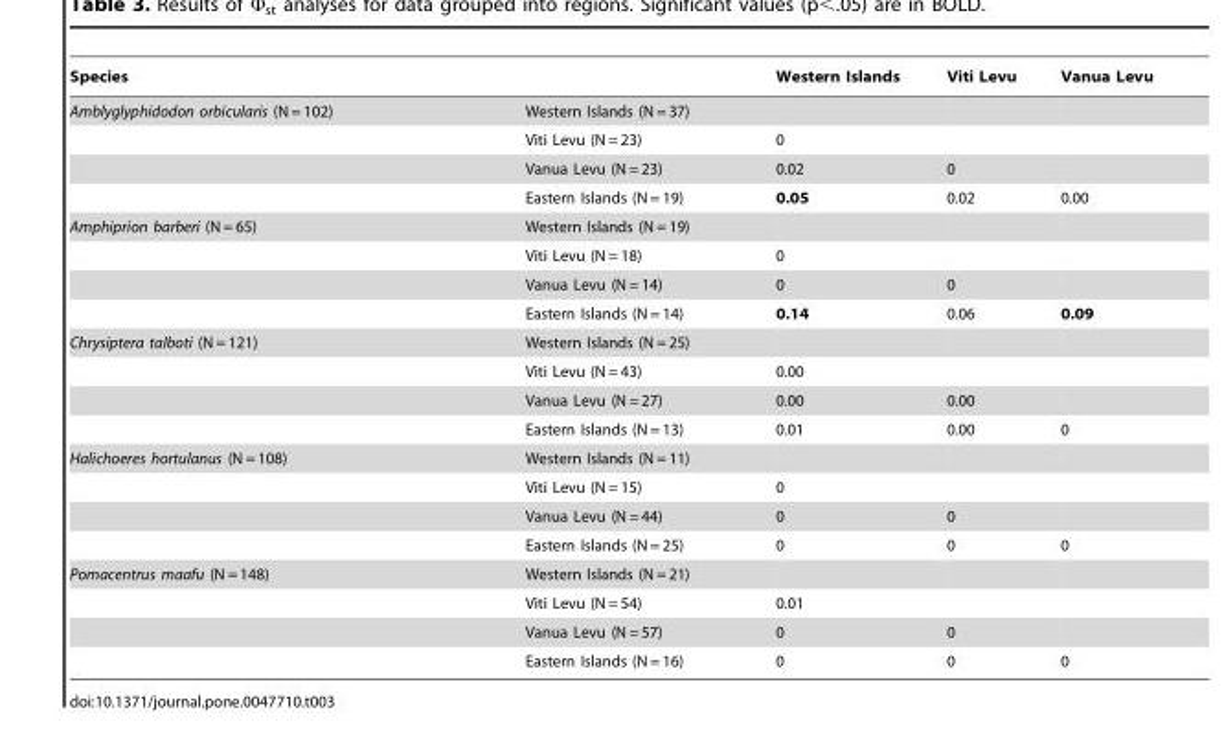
<table><thead><tr><td>Species</td><td></td><td>Western Islands</td><td>Viti Levu</td><td>Vanua Levu</td></tr></thead><tbody><tr><td rowspan="4">Amblyglyphidodon orbicularis (N = 102)</td><td>Western Islands (N = 37)</td><td></td><td></td><td></td></tr><tr><td>Viti Levu (N = 23)</td><td>0</td><td></td><td></td></tr><tr><td>Vanua Levu (N = 23)</td><td>0.02</td><td>0</td><td></td></tr><tr><td>Eastern Islands (N = 19)</td><td>0.05</td><td>0.02</td><td>0.00</td></tr><tr><td rowspan="4">Amphiprion barberi (N = 65)</td><td>Western Islands (N = 19)</td><td></td><td></td><td></td></tr><tr><td>Viti Levu (N = 18)</td><td>0</td><td></td><td></td></tr><tr><td>Vanua Levu (N = 14)</td><td>0</td><td>0</td><td></td></tr><tr><td>Eastern Islands (N = 14)</td><td>0.14</td><td>0.06</td><td>0.09</td></tr><tr><td rowspan="4">Chrysiptera talboti (N = 121)</td><td>Western Islands (N = 25)</td><td></td><td></td><td></td></tr><tr><td>Viti Levu (N = 43)</td><td>0.00</td><td></td><td></td></tr><tr><td>Vanua Levu (N = 27)</td><td>0.00</td><td>0.00</td><td></td></tr><tr><td>Eastern Islands (N = 13)</td><td>0.01</td><td>0.00</td><td>0</td></tr><tr><td rowspan="4">Halichoeres hortulanus (N = 108)</td><td>Western Islands (N = 11)</td><td></td><td></td><td></td></tr><tr><td>Viti Levu (N = 15)</td><td>0</td><td></td><td></td></tr><tr><td>Vanua Levu (N = 44)</td><td>0</td><td>0</td><td></td></tr><tr><td>Eastern Islands (N = 25)</td><td>0</td><td>0</td><td>0</td></tr><tr><td rowspan="4">Pomacentrus maafu (N = 148)</td><td>Western Islands (N = 21)</td><td></td><td></td><td></td></tr><tr><td>Viti Levu (N = 54)</td><td>0.01</td><td></td><td></td></tr><tr><td>Vanua Levu (N = 57)</td><td>0</td><td>0</td><td></td></tr><tr><td>Eastern Islands (N = 16)</td><td>0</td><td>0</td><td>0</td></tr></tbody></table>